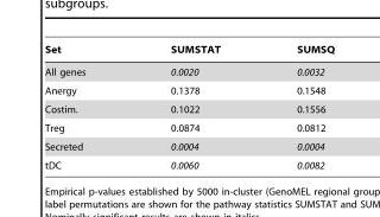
<table><thead><tr><td>Set</td><td>SUMSTAT</td><td>SUMSQ</td></tr></thead><tbody><tr><td>All genes</td><td>0.0020</td><td>0.0032</td></tr><tr><td>Anergy</td><td>0.1378</td><td>0.1548</td></tr><tr><td>Costim.</td><td>0.1022</td><td>0.1556</td></tr><tr><td>Treg</td><td>0.0874</td><td>0.0812</td></tr><tr><td>Secreted</td><td>0.0004</td><td>0.0004</td></tr><tr><td>tDC</td><td>0.0060</td><td>0.0082</td></tr></tbody></table>